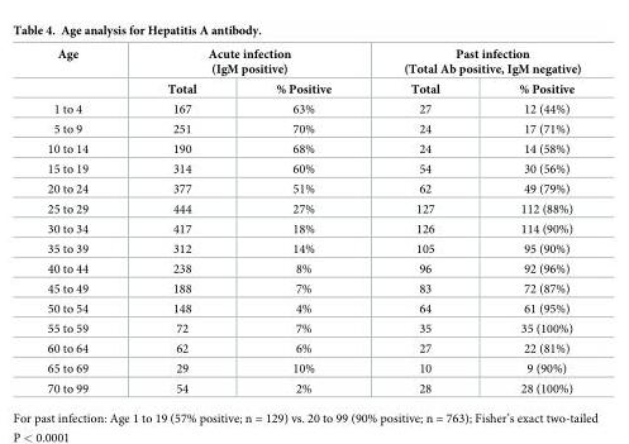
<table><thead><tr><td rowspan="2">Age</td><td colspan="2">Acute infection (IgM positive)</td><td colspan="2">Past infection (Total Ab positive, IgM negative)</td></tr><tr><td>Total</td><td>% Positive</td><td>Total</td><td>% Positive</td></tr></thead><tbody><tr><td>1 to 4</td><td>167</td><td>63%</td><td>27</td><td>12 (44%)</td></tr><tr><td>5 to 9</td><td>251</td><td>70%</td><td>24</td><td>17 (71%)</td></tr><tr><td>10 to 14</td><td>190</td><td>68%</td><td>24</td><td>14 (58%)</td></tr><tr><td>15 to 19</td><td>314</td><td>60%</td><td>54</td><td>30 (56%)</td></tr><tr><td>20 to 24</td><td>377</td><td>51%</td><td>62</td><td>49 (79%)</td></tr><tr><td>25 to 29</td><td>444</td><td>27%</td><td>127</td><td>112 (88%)</td></tr><tr><td>30 to 34</td><td>417</td><td>18%</td><td>126</td><td>114 (90%)</td></tr><tr><td>35 to 39</td><td>312</td><td>14%</td><td>105</td><td>95 (90%)</td></tr><tr><td>40 to 44</td><td>238</td><td>8%</td><td>96</td><td>92 (96%)</td></tr><tr><td>45 to 49</td><td>188</td><td>7%</td><td>83</td><td>72 (87%)</td></tr><tr><td>50 to 54</td><td>148</td><td>4%</td><td>64</td><td>61 (95%)</td></tr><tr><td>55 to 59</td><td>72</td><td>7%</td><td>35</td><td>35 (100%)</td></tr><tr><td>60 to 64</td><td>62</td><td>6%</td><td>27</td><td>22 (81%)</td></tr><tr><td>65 to 69</td><td>29</td><td>10%</td><td>10</td><td>9 (90%)</td></tr><tr><td>70 to 99</td><td>54</td><td>2%</td><td>28</td><td>28 (100%)</td></tr></tbody></table>